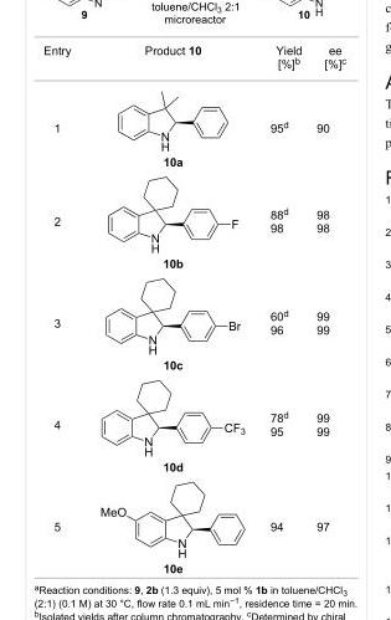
<table><tbody><tr><td>Entry</td><td>Product 10</td><td>Yield [%]<sup>b</sup></td><td>ee [%]<sup>c</sup></td></tr><tr><td>1</td><td>10a</td><td>95<sup>d</sup></td><td>90</td></tr><tr><td>2</td><td>10b</td><td>88<sup>d</sup> 98</td><td>98 98</td></tr><tr><td>3</td><td>10c</td><td>60<sup>d</sup> 96</td><td>99 99</td></tr><tr><td>4</td><td>10d</td><td>78<sup>d</sup> 95</td><td>99 99</td></tr><tr><td>5</td><td>10e</td><td>94</td><td>97</td></tr></tbody></table>